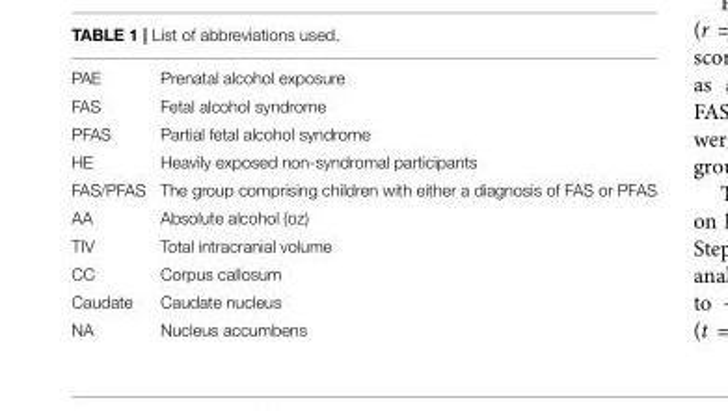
<table><tbody><tr><td>PAE</td><td>Prenatal alcohol exposure</td></tr><tr><td>FAS</td><td>Fetal alcohol syndrome</td></tr><tr><td>PFAS</td><td>Partial fetal alcohol syndrome</td></tr><tr><td>HE</td><td>Heavily exposed non-syndromal participants</td></tr><tr><td>FAS/PFAS</td><td>The group comprising children with either a diagnosis of FAS or PFAS</td></tr><tr><td>AA</td><td>Absolute alcohol (oz)</td></tr><tr><td>TIV</td><td>Total intracranial volume</td></tr><tr><td>CC</td><td>Corpus callosum</td></tr><tr><td>Caudate</td><td>Caudate nucleus</td></tr><tr><td>NA</td><td>Nucleus accumbens</td></tr></tbody></table>